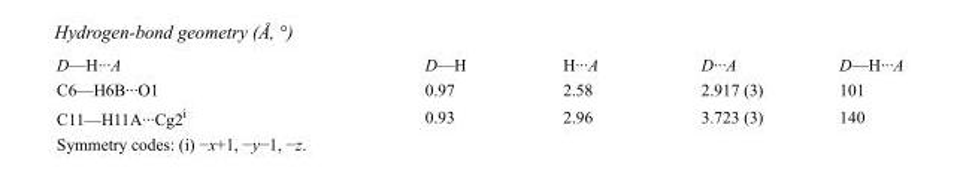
<table><tbody><tr><td>D—H···A</td><td>D—H</td><td>H···A</td><td>D···A</td><td>D—H···A</td></tr><tr><td>C6—H6B···O1</td><td>0.97</td><td>2.58</td><td>2.917 (3)</td><td>101</td></tr><tr><td>C11—H11A···Cg2<sup>i</sup></td><td>0.93</td><td>2.96</td><td>3.723 (3)</td><td>140</td></tr></tbody></table>